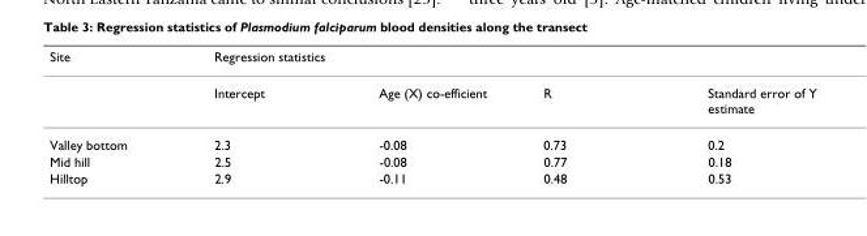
<table><thead><tr><td>Site</td><td>Regression statistics</td><td></td><td></td><td></td></tr></thead><tbody><tr><td></td><td>Intercept</td><td>Age (X) co-efficient</td><td>R</td><td>Standard error of Y estimate</td></tr><tr><td>Valley bottom</td><td>2.3</td><td>-0.08</td><td>0.73</td><td>0.2</td></tr><tr><td>Mid hill</td><td>2.5</td><td>-0.08</td><td>0.77</td><td>0.18</td></tr><tr><td>Hilltop</td><td>2.9</td><td>-0.11</td><td>0.48</td><td>0.53</td></tr></tbody></table>